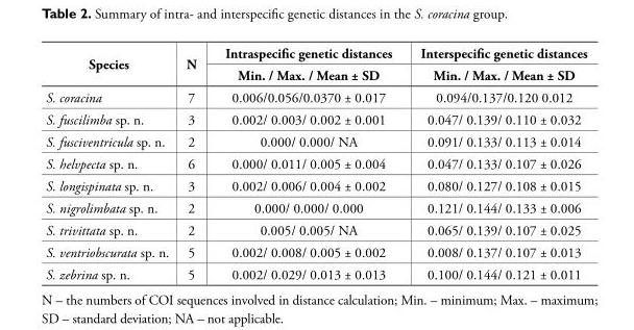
<table><thead><tr><td rowspan="2">Species</td><td rowspan="2">N</td><td rowspan="2">Intraspecific genetic distances Min. / Max. / Mean ± SD</td><td rowspan="2">Interspecific genetic distances Min. / Max. / Mean ± SD</td></tr><tr></tr></thead><tbody><tr><td>S. coracina</td><td>7</td><td>0.006/0.056/0.0370 ± 0.017</td><td>0.094/0.137/0.120 0.012</td></tr><tr><td>S. fuscilimba sp. n.</td><td>3</td><td>0.002/ 0.003/ 0.002 ± 0.001</td><td>0.047/ 0.139/ 0.110 ± 0.032</td></tr><tr><td>S. fusciventricula sp. n.</td><td>2</td><td>0.000/ 0.000/ NA</td><td>0.091/ 0.133/ 0.113 ± 0.014</td></tr><tr><td>S. helvpecta sp. n.</td><td>6</td><td>0.000/ 0.011/ 0.005 ± 0.004</td><td>0.047/ 0.133/ 0.107 ± 0.026</td></tr><tr><td>S. longispinata sp. n.</td><td>3</td><td>0.002/ 0.006/ 0.004 ± 0.002</td><td>0.080/ 0.127/ 0.108 ± 0.015</td></tr><tr><td>S. nigrolimbata sp. n.</td><td>2</td><td>0.000/ 0.000/ 0.000</td><td>0.121/ 0.144/ 0.133 ± 0.006</td></tr><tr><td>S. trivittata sp. n.</td><td>2</td><td>0.005/ 0.005/ NA</td><td>0.065/ 0.139/ 0.107 ± 0.025</td></tr><tr><td>S. ventriobscurata sp. n.</td><td>5</td><td>0.002/ 0.008/ 0.005 ± 0.002</td><td>0.008/ 0.137/ 0.107 ± 0.013</td></tr><tr><td>S. zebrina sp. n.</td><td>5</td><td>0.002/ 0.029/ 0.013 ± 0.013</td><td>0.100/ 0.144/ 0.121 ± 0.011</td></tr></tbody></table>